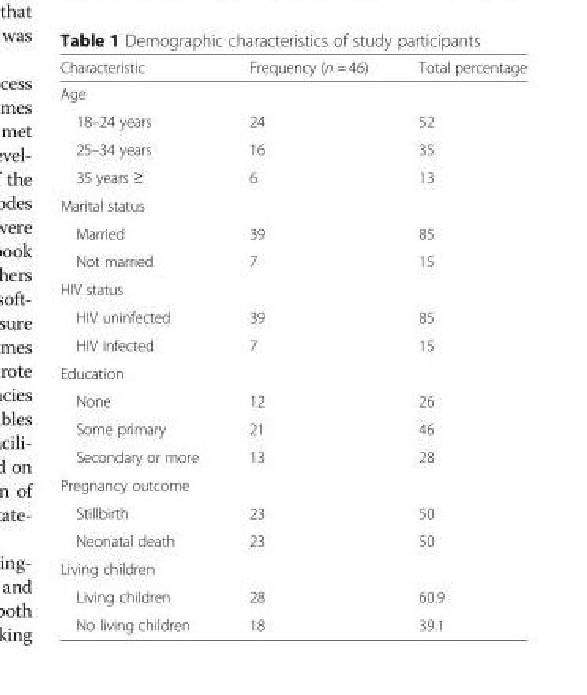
<table><thead><tr><td>Characteristic</td><td>Frequency (n = 46)</td><td>Total percentage</td></tr></thead><tbody><tr><td colspan="3">Age</td></tr><tr><td>18–24 years</td><td>24</td><td>52</td></tr><tr><td>25–34 years</td><td>16</td><td>35</td></tr><tr><td>35 years ≥</td><td>6</td><td>13</td></tr><tr><td colspan="3">Marital status</td></tr><tr><td>Married</td><td>39</td><td>85</td></tr><tr><td>Not married</td><td>7</td><td>15</td></tr><tr><td colspan="3">HIV status</td></tr><tr><td>HIV uninfected</td><td>39</td><td>85</td></tr><tr><td>HIV infected</td><td>7</td><td>15</td></tr><tr><td colspan="3">Education</td></tr><tr><td>None</td><td>12</td><td>26</td></tr><tr><td>Some primary</td><td>21</td><td>46</td></tr><tr><td>Secondary or more</td><td>13</td><td>28</td></tr><tr><td colspan="3">Pregnancy outcome</td></tr><tr><td>Stillbirth</td><td>23</td><td>50</td></tr><tr><td>Neonatal death</td><td>23</td><td>50</td></tr><tr><td colspan="3">Living children</td></tr><tr><td>Living children</td><td>28</td><td>60.9</td></tr><tr><td>No living children</td><td>18</td><td>39.1</td></tr></tbody></table>